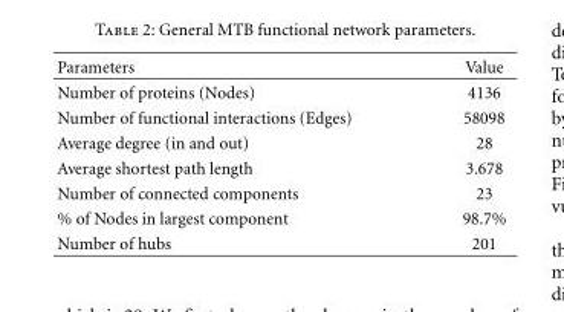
<table><thead><tr><td>Parameters</td><td>Value</td></tr></thead><tbody><tr><td>Number of proteins (Nodes)</td><td>4136</td></tr><tr><td>Number of functional interactions (Edges)</td><td>58098</td></tr><tr><td>Average degree (in and out)</td><td>28</td></tr><tr><td>Average shortest path length</td><td>3.678</td></tr><tr><td>Number of connected components</td><td>23</td></tr><tr><td>% of Nodes in largest component</td><td>98.7%</td></tr><tr><td>Number of hubs</td><td>201</td></tr></tbody></table>